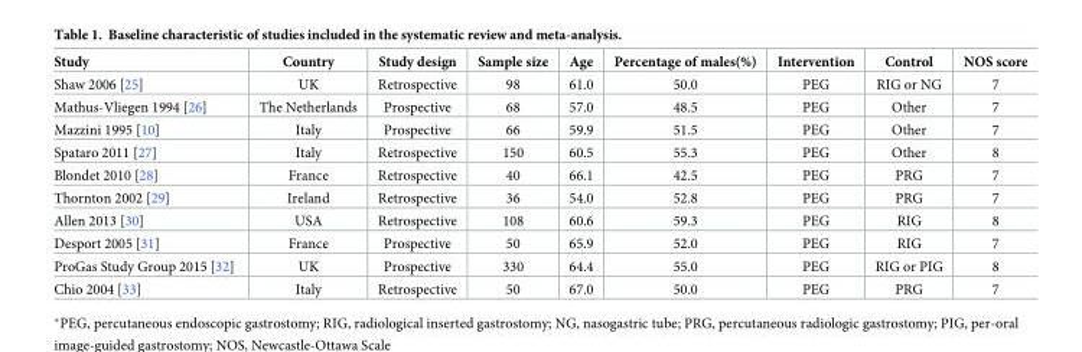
<table><thead><tr><td>Study</td><td>Country</td><td>Study design</td><td>Sample size</td><td>Age</td><td>Percentage of males(%)</td><td>Intervention</td><td>Control</td><td>NOS score</td></tr></thead><tbody><tr><td>Shaw 2006 [25]</td><td>UK</td><td>Retrospective</td><td>98</td><td>61.0</td><td>50.0</td><td>PEG</td><td>RIG or NG</td><td>7</td></tr><tr><td>Mathus-Vliegen 1994 [26]</td><td>The Netherlands</td><td>Prospective</td><td>68</td><td>57.0</td><td>48.5</td><td>PEG</td><td>Other</td><td>7</td></tr><tr><td>Mazzini 1995 [10]</td><td>Italy</td><td>Prospective</td><td>66</td><td>59.9</td><td>51.5</td><td>PEG</td><td>Other</td><td>7</td></tr><tr><td>Spataro 2011 [27]</td><td>Italy</td><td>Retrospective</td><td>150</td><td>60.5</td><td>55.3</td><td>PEG</td><td>Other</td><td>8</td></tr><tr><td>Blondet 2010 [28]</td><td>France</td><td>Retrospective</td><td>40</td><td>66.1</td><td>42.5</td><td>PEG</td><td>PRG</td><td>7</td></tr><tr><td>Thornton 2002 [29]</td><td>Ireland</td><td>Retrospective</td><td>36</td><td>54.0</td><td>52.8</td><td>PEG</td><td>PRG</td><td>7</td></tr><tr><td>Allen 2013 [30]</td><td>USA</td><td>Retrospective</td><td>108</td><td>60.6</td><td>59.3</td><td>PEG</td><td>RIG</td><td>8</td></tr><tr><td>Desport 2005 [31]</td><td>France</td><td>Prospective</td><td>50</td><td>65.9</td><td>52.0</td><td>PEG</td><td>RIG</td><td>7</td></tr><tr><td>ProGas Study Group 2015 [32]</td><td>UK</td><td>Prospective</td><td>330</td><td>64.4</td><td>55.0</td><td>PEG</td><td>RIG or PIG</td><td>8</td></tr><tr><td>Chio 2004 [33]</td><td>Italy</td><td>Retrospective</td><td>50</td><td>67.0</td><td>50.0</td><td>PEG</td><td>PRG</td><td>7</td></tr></tbody></table>